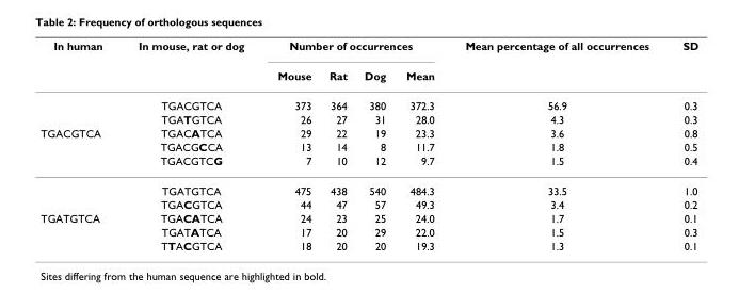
<table><thead><tr><td rowspan="2">In human</td><td rowspan="2">In mouse, rat or dog</td><td colspan="4">Number of occurrences</td><td rowspan="2">Mean percentage of all occurrences</td><td rowspan="2">SD</td></tr><tr><td>Mouse</td><td>Rat</td><td>Dog</td><td>Mean</td></tr></thead><tbody><tr><td></td><td>TGACGTCA</td><td>373</td><td>364</td><td>380</td><td>372.3</td><td>56.9</td><td>0.3</td></tr><tr><td></td><td>TGATGTCA</td><td>26</td><td>27</td><td>31</td><td>28.0</td><td>4.3</td><td>0.3</td></tr><tr><td rowspan="5">TGACGTCA</td><td>TGACATCA</td><td>29</td><td>22</td><td>19</td><td>23.3</td><td>3.6</td><td>0.8</td></tr><tr><td>TGACGCCA</td><td>13</td><td>14</td><td>8</td><td>11.7</td><td>1.8</td><td>0.5</td></tr><tr><td>TGACGTCG</td><td>7</td><td>10</td><td>12</td><td>9.7</td><td>1.5</td><td>0.4</td></tr><tr><td>TGATGTCA</td><td>475</td><td>438</td><td>540</td><td>484.3</td><td>33.5</td><td>1.0</td></tr><tr><td>TGACGTCA</td><td>44</td><td>47</td><td>57</td><td>49.3</td><td>3.4</td><td>0.2</td></tr><tr><td rowspan="3">TGATGTCA</td><td>TGACATCA</td><td>24</td><td>23</td><td>25</td><td>24.0</td><td>1.7</td><td>0.1</td></tr><tr><td>TGATATCA</td><td>17</td><td>20</td><td>29</td><td>22.0</td><td>1.5</td><td>0.3</td></tr><tr><td>TTACGTCA</td><td>18</td><td>20</td><td>20</td><td>19.3</td><td>1.3</td><td>0.1</td></tr></tbody></table>